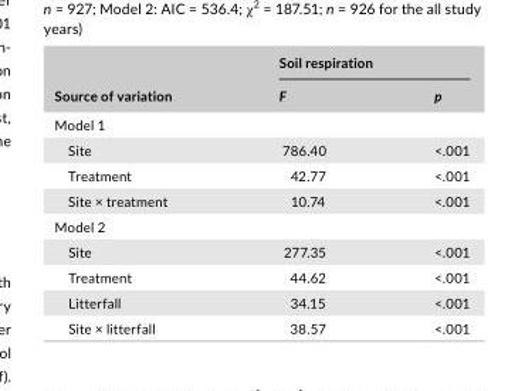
<table><thead><tr><td rowspan="2">Source of variation</td><td colspan="2">Soil respiration</td></tr><tr><td>F</td><td>p</td></tr></thead><tbody><tr><td colspan="3">Model 1</td></tr><tr><td>Site</td><td>786.40</td><td>&lt;.001</td></tr><tr><td>Treatment</td><td>42.77</td><td>&lt;.001</td></tr><tr><td>Site × treatment</td><td>10.74</td><td>&lt;.001</td></tr><tr><td colspan="3">Model 2</td></tr><tr><td>Site</td><td>277.35</td><td>&lt;.001</td></tr><tr><td>Treatment</td><td>44.62</td><td>&lt;.001</td></tr><tr><td>Litterfall</td><td>34.15</td><td>&lt;.001</td></tr><tr><td>Site × litterfall</td><td>38.57</td><td>&lt;.001</td></tr></tbody></table>